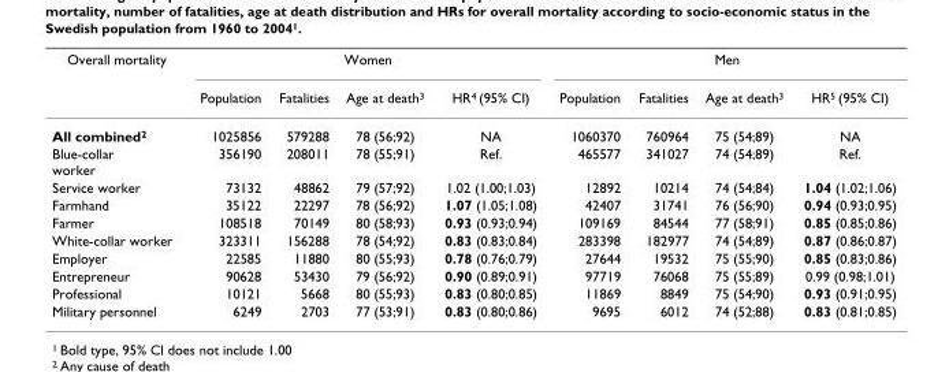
<table><thead><tr><td rowspan="2">Overall mortality</td><td colspan="4">Women</td><td colspan="4">Men</td></tr><tr><td>Population</td><td>Fatalities</td><td>Age at death<sup>3</sup></td><td>HR<sup>4</sup> (95% CI)</td><td>Population</td><td>Fatalities</td><td>Age at death<sup>3</sup></td><td>HR<sup>5</sup> (95% CI)</td></tr></thead><tbody><tr><td>All combined<sup>2</sup></td><td>1025856</td><td>579288</td><td>78 (56;92)</td><td>NA</td><td>1060370</td><td>760964</td><td>75 (54;89)</td><td>NA</td></tr><tr><td>Blue-collar worker</td><td>356190</td><td>208011</td><td>78 (55;91)</td><td>Ref.</td><td>465577</td><td>341027</td><td>74 (54;89)</td><td>Ref.</td></tr><tr><td>Service worker</td><td>73132</td><td>48862</td><td>79 (57;92)</td><td>1.02 (1.00;1.03)</td><td>12892</td><td>10214</td><td>74 (54;84)</td><td>1.04 (1.02;1.06)</td></tr><tr><td>Farmhand</td><td>35122</td><td>22297</td><td>78 (56;92)</td><td>1.07 (1.05;1.08)</td><td>42407</td><td>31741</td><td>76 (56;90)</td><td>0.94 (0.93;0.95)</td></tr><tr><td>Farmer</td><td>108518</td><td>70149</td><td>80 (58;93)</td><td>0.93 (0.93;0.94)</td><td>109169</td><td>84544</td><td>77 (58;91)</td><td>0.85 (0.85;0.86)</td></tr><tr><td>White-collar worker</td><td>323311</td><td>156288</td><td>78 (54;92)</td><td>0.83 (0.83;0.84)</td><td>283398</td><td>182977</td><td>74 (54;89)</td><td>0.87 (0.86;0.87)</td></tr><tr><td>Employer</td><td>22585</td><td>11880</td><td>80 (55;93)</td><td>0.78 (0.76;0.79)</td><td>27644</td><td>19532</td><td>75 (55;90)</td><td>0.85 (0.83;0.86)</td></tr><tr><td>Entrepreneur</td><td>90628</td><td>53430</td><td>79 (56;92)</td><td>0.90 (0.89;0.91)</td><td>97719</td><td>76068</td><td>75 (55;89)</td><td>0.99 (0.98;1.01)</td></tr><tr><td>Professional</td><td>10121</td><td>5668</td><td>80 (55;93)</td><td>0.83 (0.80;0.85)</td><td>11869</td><td>8849</td><td>75 (54;90)</td><td>0.93 (0.91;0.95)</td></tr><tr><td>Military personnel</td><td>6249</td><td>2703</td><td>77 (53;91)</td><td>0.83 (0.80;0.86)</td><td>9695</td><td>6012</td><td>74 (52;88)</td><td>0.83 (0.81;0.85)</td></tr></tbody></table>